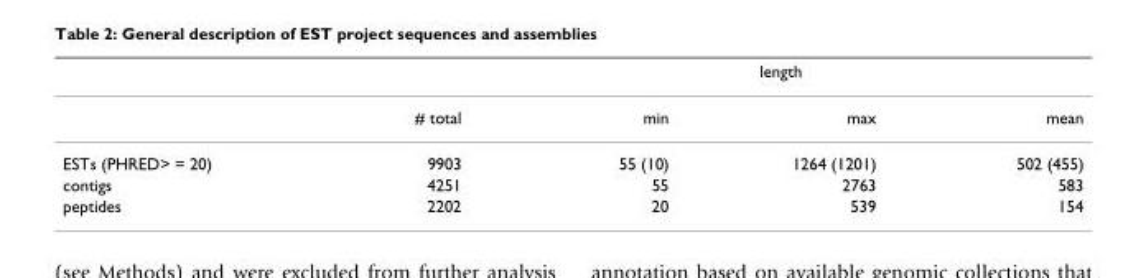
<table><thead><tr><td rowspan="2"></td><td rowspan="2"># total</td><td colspan="3">length</td></tr><tr><td>min</td><td>max</td><td>mean</td></tr></thead><tbody><tr><td>ESTs (PHRED&gt; = 20)</td><td>9903</td><td>55 (10)</td><td>1264 (1201)</td><td>502 (455)</td></tr><tr><td>contigs</td><td>4251</td><td>55</td><td>2763</td><td>583</td></tr><tr><td>peptides</td><td>2202</td><td>20</td><td>539</td><td>154</td></tr></tbody></table>